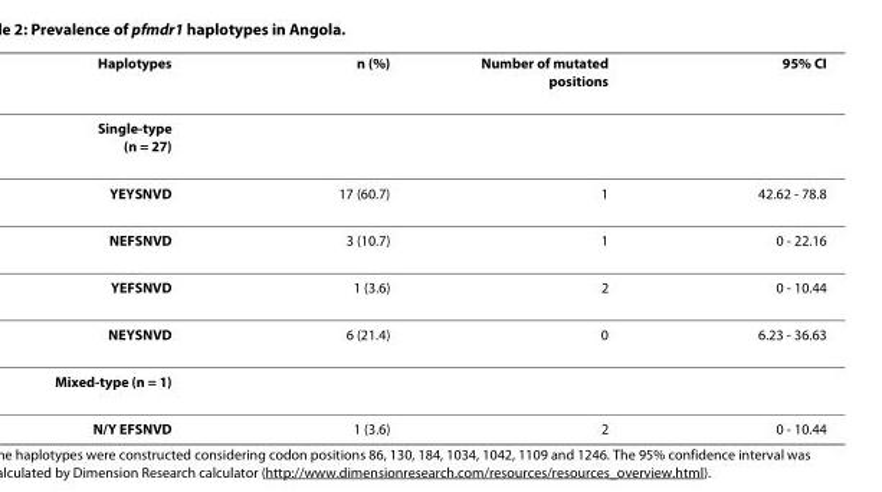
<table><thead><tr><td>Haplotypes</td><td>n (%)</td><td>Number of mutated positions</td><td>95% CI</td></tr></thead><tbody><tr><td colspan="4">Single-type (n = 27)</td></tr><tr><td>YEYSNVD</td><td>17 (60.7)</td><td>1</td><td>42.62 - 78.8</td></tr><tr><td>NEFSNVD</td><td>3 (10.7)</td><td>1</td><td>0 - 22.16</td></tr><tr><td>YEFSNVD</td><td>1 (3.6)</td><td>2</td><td>0 - 10.44</td></tr><tr><td>NEYSNVD</td><td>6 (21.4)</td><td>0</td><td>6.23 - 36.63</td></tr><tr><td colspan="4">Mixed-type (n = 1)</td></tr><tr><td>N/Y EFSNVD</td><td>1 (3.6)</td><td>2</td><td>0 - 10.44</td></tr></tbody></table>